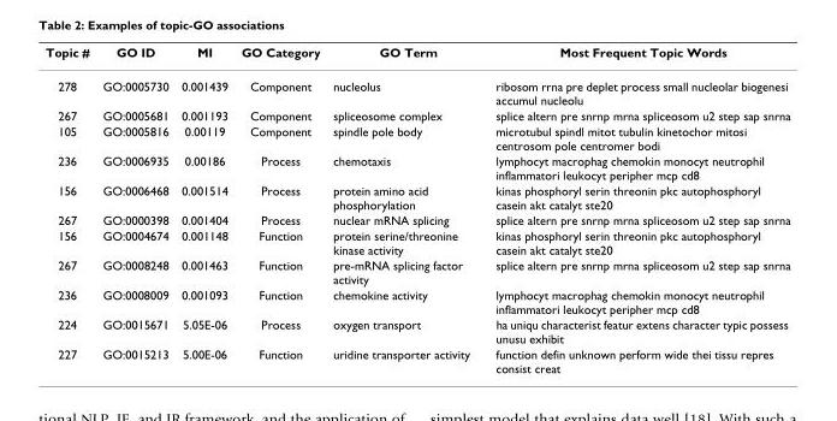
<table><thead><tr><td>Topic #</td><td>GO ID</td><td>MI</td><td>GO Category</td><td>GO Term</td><td>Most Frequent Topic Words</td></tr></thead><tbody><tr><td>278</td><td>GO:0005730</td><td>0.001439</td><td>Component</td><td>nucleolus</td><td>ribosom rrna pre deplet process small nucleolar biogenesi accumul nucleolu</td></tr><tr><td>267</td><td>GO:0005681</td><td>0.001193</td><td>Component</td><td>spliceosome complex</td><td>splice altern pre snrnp mrna spliceosom u2 step sap snrna</td></tr><tr><td>105</td><td>GO:0005816</td><td>0.00119</td><td>Component</td><td>spindle pole body</td><td>microtubul spindl mitot tubulin kinetochor mitosi centrosom pole centromer bodi</td></tr><tr><td>236</td><td>GO:0006935</td><td>0.00186</td><td>Process</td><td>chemotaxis</td><td>lymphocyt macrophag chemokin monocyt neutrophil inflammatori leukocyt peripher mcp cd8</td></tr><tr><td>156</td><td>GO:0006468</td><td>0.001514</td><td>Process</td><td>protein amino acid phosphorylation</td><td>kinas phosphoryl serin threonin pkc autophosphoryl casein akt catalyt ste20</td></tr><tr><td>267</td><td>GO:0000398</td><td>0.001404</td><td>Process</td><td>nuclear mRNA splicing</td><td>splice altern pre snrnp mrna spliceosom u2 step sap snrna</td></tr><tr><td>156</td><td>GO:0004674</td><td>0.001148</td><td>Function</td><td>protein serine/threonine kinase activity</td><td>kinas phosphoryl serin threonin pkc autophosphoryl casein akt catalyt ste20</td></tr><tr><td>267</td><td>GO:0008248</td><td>0.001463</td><td>Function</td><td>pre-mRNA splicing factor activity</td><td>splice altern pre snrnp mrna spliceosom u2 step sap snrna</td></tr><tr><td>236</td><td>GO:0008009</td><td>0.001093</td><td>Function</td><td>chemokine activity</td><td>lymphocyt macrophag chemokin monocyt neutrophil inflammatori leukocyt peripher mcp cd8</td></tr><tr><td>224</td><td>GO:0015671</td><td>5.05E-06</td><td>Process</td><td>oxygen transport</td><td>ha uniqu characterist featur extens character typic possess unusu exhibit</td></tr><tr><td>227</td><td>GO:0015213</td><td>5.00E-06</td><td>Function</td><td>uridine transporter activity</td><td>function defin unknown perform wide thei tissu repres consist creat</td></tr></tbody></table>